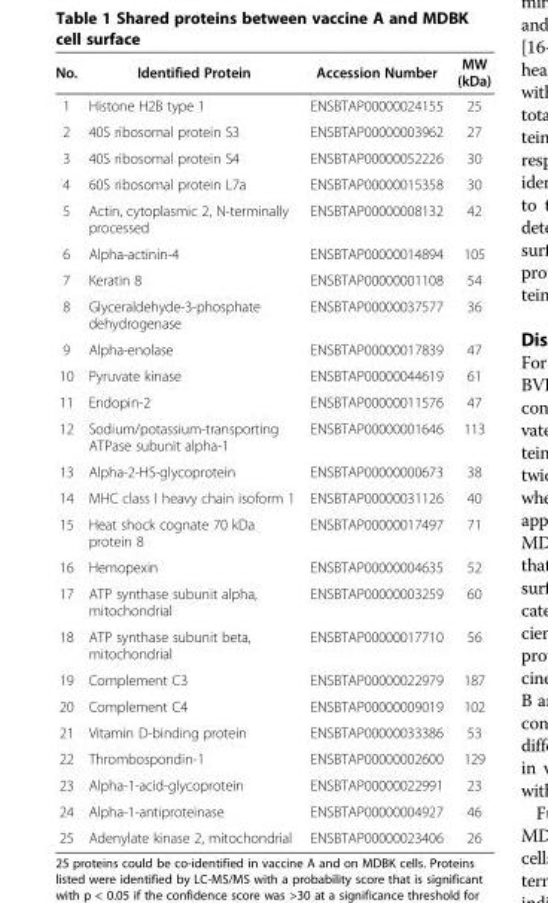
<table><thead><tr><td>No.</td><td>Identified Protein</td><td>Accession Number</td><td>MW (kDa)</td></tr></thead><tbody><tr><td>1</td><td>Histone H2B type 1</td><td>ENSBTAP00000024155</td><td>25</td></tr><tr><td>2</td><td>40S ribosomal protein S3</td><td>ENSBTAP00000003962</td><td>27</td></tr><tr><td>3</td><td>40S ribosomal protein S4</td><td>ENSBTAP00000052226</td><td>30</td></tr><tr><td>4</td><td>60S ribosomal protein L7a</td><td>ENSBTAP00000015358</td><td>30</td></tr><tr><td>5</td><td>Actin, cytoplasmic 2, N-terminally processed</td><td>ENSBTAP00000008132</td><td>42</td></tr><tr><td>6</td><td>Alpha-actinin-4</td><td>ENSBTAP00000014894</td><td>105</td></tr><tr><td>7</td><td>Keratin 8</td><td>ENSBTAP00000001108</td><td>54</td></tr><tr><td>8</td><td>Glyceraldehyde-3-phosphate dehydrogenase</td><td>ENSBTAP00000037577</td><td>36</td></tr><tr><td>9</td><td>Alpha-enolase</td><td>ENSBTAP00000017839</td><td>47</td></tr><tr><td>10</td><td>Pyruvate kinase</td><td>ENSBTAP00000044619</td><td>61</td></tr><tr><td>11</td><td>Endopin-2</td><td>ENSBTAP00000011576</td><td>47</td></tr><tr><td>12</td><td>Sodium/potassium-transporting ATPase subunit alpha-1</td><td>ENSBTAP00000001646</td><td>113</td></tr><tr><td>13</td><td>Alpha-2-HS-glycoprotein</td><td>ENSBTAP00000000673</td><td>38</td></tr><tr><td>14</td><td>MHC class I heavy chain isoform 1</td><td>ENSBTAP00000031126</td><td>40</td></tr><tr><td>15</td><td>Heat shock cognate 70 kDa protein 8</td><td>ENSBTAP00000017497</td><td>71</td></tr><tr><td>16</td><td>Hemopexin</td><td>ENSBTAP00000004635</td><td>52</td></tr><tr><td>17</td><td>ATP synthase subunit alpha, mitochondrial</td><td>ENSBTAP00000003259</td><td>60</td></tr><tr><td>18</td><td>ATP synthase subunit beta, mitochondrial</td><td>ENSBTAP00000017710</td><td>56</td></tr><tr><td>19</td><td>Complement C3</td><td>ENSBTAP00000022979</td><td>187</td></tr><tr><td>20</td><td>Complement C4</td><td>ENSBTAP00000009019</td><td>102</td></tr><tr><td>21</td><td>Vitamin D-binding protein</td><td>ENSBTAP00000033386</td><td>53</td></tr><tr><td>22</td><td>Thrombospondin-1</td><td>ENSBTAP00000002600</td><td>129</td></tr><tr><td>23</td><td>Alpha-1-acid-glycoprotein</td><td>ENSBTAP00000022991</td><td>23</td></tr><tr><td>24</td><td>Alpha-1-antiproteinase</td><td>ENSBTAP00000004927</td><td>46</td></tr><tr><td>25</td><td>Adenylate kinase 2, mitochondrial</td><td>ENSBTAP00000023406</td><td>26</td></tr></tbody></table>